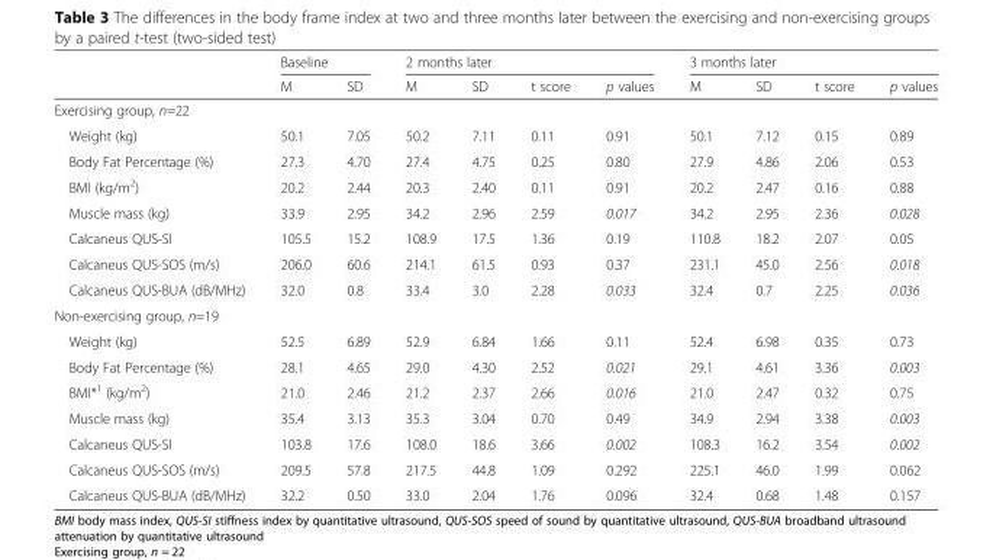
<table><thead><tr><td rowspan="2"></td><td colspan="2">Baseline</td><td colspan="4">2 months later</td><td colspan="4">3 months later</td></tr><tr><td>M</td><td>SD</td><td>M</td><td>SD</td><td>t score</td><td>p values</td><td>M</td><td>SD</td><td>t score</td><td>p values</td></tr></thead><tbody><tr><td colspan="11">Exercising group, n=22</td></tr><tr><td>Weight (kg)</td><td>50.1</td><td>7.05</td><td>50.2</td><td>7.11</td><td>0.11</td><td>0.91</td><td>50.1</td><td>7.12</td><td>0.15</td><td>0.89</td></tr><tr><td>Body Fat Percentage (%)</td><td>27.3</td><td>4.70</td><td>27.4</td><td>4.75</td><td>0.25</td><td>0.80</td><td>27.9</td><td>4.86</td><td>2.06</td><td>0.53</td></tr><tr><td>BMI (kg/m<sup>2</sup>)</td><td>20.2</td><td>2.44</td><td>20.3</td><td>2.40</td><td>0.11</td><td>0.91</td><td>20.2</td><td>2.47</td><td>0.16</td><td>0.88</td></tr><tr><td>Muscle mass (kg)</td><td>33.9</td><td>2.95</td><td>34.2</td><td>2.96</td><td>2.59</td><td>0.017</td><td>34.2</td><td>2.95</td><td>2.36</td><td>0.028</td></tr><tr><td>Calcaneus QUS-SI</td><td>105.5</td><td>15.2</td><td>108.9</td><td>17.5</td><td>1.36</td><td>0.19</td><td>110.8</td><td>18.2</td><td>2.07</td><td>0.05</td></tr><tr><td>Calcaneus QUS-SOS (m/s)</td><td>206.0</td><td>60.6</td><td>214.1</td><td>61.5</td><td>0.93</td><td>0.37</td><td>231.1</td><td>45.0</td><td>2.56</td><td>0.018</td></tr><tr><td>Calcaneus QUS-BUA (dB/MHz)</td><td>32.0</td><td>0.8</td><td>33.4</td><td>3.0</td><td>2.28</td><td>0.033</td><td>32.4</td><td>0.7</td><td>2.25</td><td>0.036</td></tr><tr><td colspan="11">Non-exercising group, n=19</td></tr><tr><td>Weight (kg)</td><td>52.5</td><td>6.89</td><td>52.9</td><td>6.84</td><td>1.66</td><td>0.11</td><td>52.4</td><td>6.98</td><td>0.35</td><td>0.73</td></tr><tr><td>Body Fat Percentage (%)</td><td>28.1</td><td>4.65</td><td>29.0</td><td>4.30</td><td>2.52</td><td>0.021</td><td>29.1</td><td>4.61</td><td>3.36</td><td>0.003</td></tr><tr><td>BMI*<sup>1</sup> (kg/m<sup>2</sup>)</td><td>21.0</td><td>2.46</td><td>21.2</td><td>2.37</td><td>2.66</td><td>0.016</td><td>21.0</td><td>2.47</td><td>0.32</td><td>0.75</td></tr><tr><td>Muscle mass (kg)</td><td>35.4</td><td>3.13</td><td>35.3</td><td>3.04</td><td>0.70</td><td>0.49</td><td>34.9</td><td>2.94</td><td>3.38</td><td>0.003</td></tr><tr><td>Calcaneus QUS-SI</td><td>103.8</td><td>17.6</td><td>108.0</td><td>18.6</td><td>3.66</td><td>0.002</td><td>108.3</td><td>16.2</td><td>3.54</td><td>0.002</td></tr><tr><td>Calcaneus QUS-SOS (m/s)</td><td>209.5</td><td>57.8</td><td>217.5</td><td>44.8</td><td>1.09</td><td>0.292</td><td>225.1</td><td>46.0</td><td>1.99</td><td>0.062</td></tr><tr><td>Calcaneus QUS-BUA (dB/MHz)</td><td>32.2</td><td>0.50</td><td>33.0</td><td>2.04</td><td>1.76</td><td>0.096</td><td>32.4</td><td>0.68</td><td>1.48</td><td>0.157</td></tr></tbody></table>